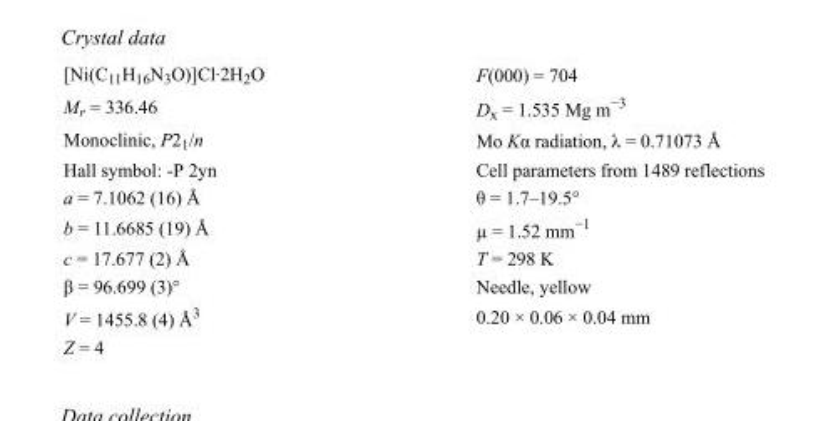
<table><tbody><tr><td>[Ni(C<sub>11</sub>H<sub>16</sub>N<sub>3</sub>O)]Cl·2H<sub>2</sub>O</td><td>F(000) = 704</td></tr><tr><td>M<sub>r</sub> = 336.46</td><td>D<sub>x</sub> = 1.535 Mg m<sup>−3</sup></td></tr><tr><td>Monoclinic, P2<sub>1</sub>/n</td><td>Mo Kα radiation, λ = 0.71073 Å</td></tr><tr><td>Hall symbol: -P 2yn</td><td>Cell parameters from 1489 reflections</td></tr><tr><td>a = 7.1062 (16) Å</td><td>θ = 1.7–19.5°</td></tr><tr><td>b = 11.6685 (19) Å</td><td>µ = 1.52 mm<sup>−1</sup></td></tr><tr><td>c = 17.677 (2) Å</td><td>T = 298 K</td></tr><tr><td>β = 96.699 (3)°</td><td>Needle, yellow</td></tr><tr><td>V = 1455.8 (4) Å<sup>3</sup></td><td>0.20 × 0.06 × 0.04 mm</td></tr><tr><td>Z = 4</td><td></td></tr></tbody></table>